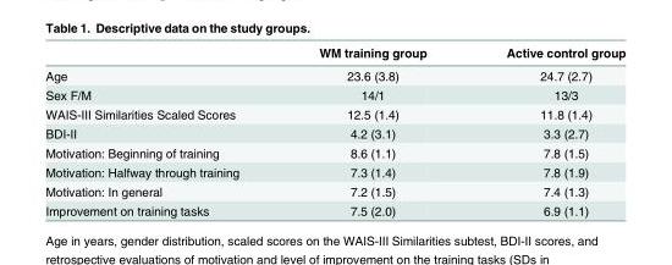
<table><thead><tr><td></td><td>WM training group</td><td>Active control group</td></tr></thead><tbody><tr><td>Age</td><td>23.6 (3.8)</td><td>24.7 (2.7)</td></tr><tr><td>Sex F/M</td><td>14/1</td><td>13/3</td></tr><tr><td>WAIS-III Similarities Scaled Scores</td><td>12.5 (1.4)</td><td>11.8 (1.4)</td></tr><tr><td>BDI-II</td><td>4.2 (3.1)</td><td>3.3 (2.7)</td></tr><tr><td>Motivation: Beginning of training</td><td>8.6 (1.1)</td><td>7.8 (1.5)</td></tr><tr><td>Motivation: Halfway through training</td><td>7.3 (1.4)</td><td>7.8 (1.9)</td></tr><tr><td>Motivation: In general</td><td>7.2 (1.5)</td><td>7.4 (1.3)</td></tr><tr><td>Improvement on training tasks</td><td>7.5 (2.0)</td><td>6.9 (1.1)</td></tr></tbody></table>